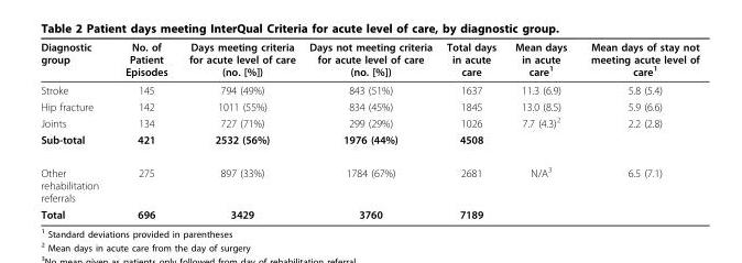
<table><thead><tr><td>Diagnostic group</td><td>No. of Patient Episodes</td><td>Days meeting criteria for acute level of care (no. [%])</td><td>Days not meeting criteria for acute level of care (no. [%])</td><td>Total days in acute care</td><td>Mean days in acute care<sup>1</sup></td><td>Mean days of stay not meeting acute level of care<sup>1</sup></td></tr></thead><tbody><tr><td>Stroke</td><td>145</td><td>794 (49%)</td><td>843 (51%)</td><td>1637</td><td>11.3 (6.9)</td><td>5.8 (5.4)</td></tr><tr><td>Hip fracture</td><td>142</td><td>1011 (55%)</td><td>834 (45%)</td><td>1845</td><td>13.0 (8.5)</td><td>5.9 (6.6)</td></tr><tr><td>Joints</td><td>134</td><td>727 (71%)</td><td>299 (29%)</td><td>1026</td><td>7.7 (4.3)<sup>2</sup></td><td>2.2 (2.8)</td></tr><tr><td>Sub-total</td><td>421</td><td>2532 (56%)</td><td>1976 (44%)</td><td>4508</td><td></td><td></td></tr><tr><td>Other rehabilitation referrals</td><td>275</td><td>897 (33%)</td><td>1784 (67%)</td><td>2681</td><td>N/A<sup>3</sup></td><td>6.5 (7.1)</td></tr><tr><td>Total</td><td>696</td><td>3429</td><td>3760</td><td>7189</td><td></td><td></td></tr></tbody></table>